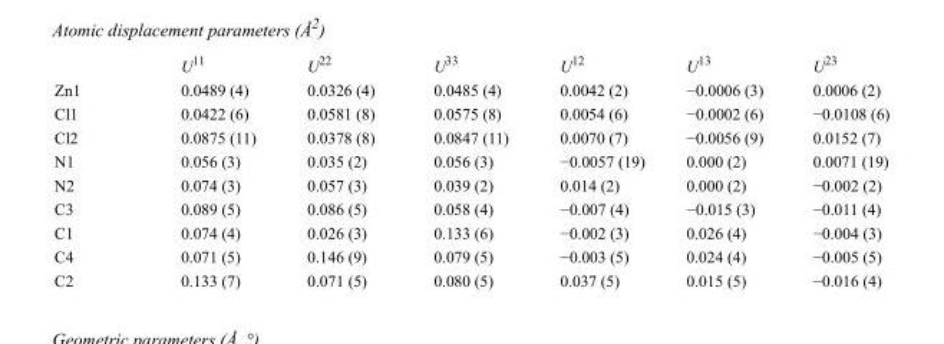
<table><thead><tr><td></td><td>U<sup>11</sup></td><td>U<sup>22</sup></td><td>U<sup>33</sup></td><td>U<sup>12</sup></td><td>U<sup>13</sup></td><td>U<sup>23</sup></td></tr></thead><tbody><tr><td>Zn1</td><td>0.0489 (4)</td><td>0.0326 (4)</td><td>0.0485 (4)</td><td>0.0042 (2)</td><td>−0.0006 (3)</td><td>0.0006 (2)</td></tr><tr><td>Cl1</td><td>0.0422 (6)</td><td>0.0581 (8)</td><td>0.0575 (8)</td><td>0.0054 (6)</td><td>−0.0002 (6)</td><td>−0.0108 (6)</td></tr><tr><td>Cl2</td><td>0.0875 (11)</td><td>0.0378 (8)</td><td>0.0847 (11)</td><td>0.0070 (7)</td><td>−0.0056 (9)</td><td>0.0152 (7)</td></tr><tr><td>N1</td><td>0.056 (3)</td><td>0.035 (2)</td><td>0.056 (3)</td><td>−0.0057 (19)</td><td>0.000 (2)</td><td>0.0071 (19)</td></tr><tr><td>N2</td><td>0.074 (3)</td><td>0.057 (3)</td><td>0.039 (2)</td><td>0.014 (2)</td><td>0.000 (2)</td><td>−0.002 (2)</td></tr><tr><td>C3</td><td>0.089 (5)</td><td>0.086 (5)</td><td>0.058 (4)</td><td>−0.007 (4)</td><td>−0.015 (3)</td><td>−0.011 (4)</td></tr><tr><td>C1</td><td>0.074 (4)</td><td>0.026 (3)</td><td>0.133 (6)</td><td>−0.002 (3)</td><td>0.026 (4)</td><td>−0.004 (3)</td></tr><tr><td>C4</td><td>0.071 (5)</td><td>0.146 (9)</td><td>0.079 (5)</td><td>−0.003 (5)</td><td>0.024 (4)</td><td>−0.005 (5)</td></tr><tr><td>C2</td><td>0.133 (7)</td><td>0.071 (5)</td><td>0.080 (5)</td><td>0.037 (5)</td><td>0.015 (5)</td><td>−0.016 (4)</td></tr></tbody></table>